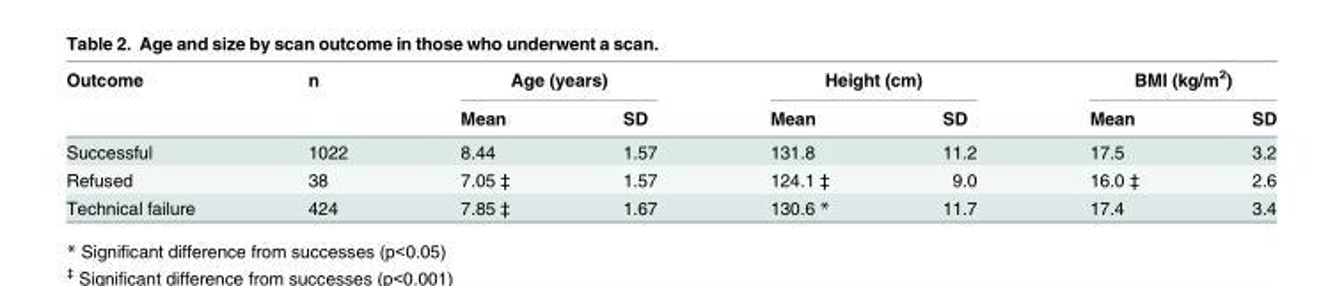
<table><thead><tr><td rowspan="2">Outcome</td><td rowspan="2">n</td><td colspan="2">Age (years)</td><td colspan="2">Height (cm)</td><td colspan="2">BMI (kg/m<sup>2</sup>)</td></tr><tr><td>Mean</td><td>SD</td><td>Mean</td><td>SD</td><td>Mean</td><td>SD</td></tr></thead><tbody><tr><td>Successful</td><td>1022</td><td>8.44</td><td>1.57</td><td>131.8</td><td>11.2</td><td>17.5</td><td>3.2</td></tr><tr><td>Refused</td><td>38</td><td>7.05 ‡</td><td>1.57</td><td>124.1 ‡</td><td>9.0</td><td>16.0 ‡</td><td>2.6</td></tr><tr><td>Technical failure</td><td>424</td><td>7.85 ‡</td><td>1.67</td><td>130.6 *</td><td>11.7</td><td>17.4</td><td>3.4</td></tr></tbody></table>